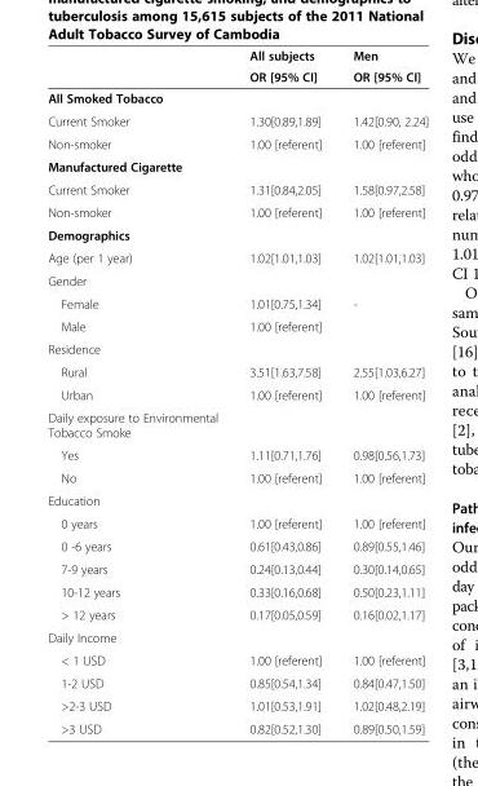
<table><thead><tr><td rowspan="2"></td><td rowspan="2">All subjects OR [95% CI]</td><td rowspan="2">Men OR [95% CI]</td></tr><tr></tr></thead><tbody><tr><td colspan="3">All Smoked Tobacco</td></tr><tr><td>Current Smoker</td><td>1.30[0.89,1.89]</td><td>1.42[0.90, 2.24]</td></tr><tr><td>Non-smoker</td><td>1.00 [referent]</td><td>1.00 [referent]</td></tr><tr><td colspan="3">Manufactured Cigarette</td></tr><tr><td>Current Smoker</td><td>1.31[0.84,2.05]</td><td>1.58[0.97,2.58]</td></tr><tr><td>Non-smoker</td><td>1.00 [referent]</td><td>1.00 [referent]</td></tr><tr><td colspan="3">Demographics</td></tr><tr><td>Age (per 1 year)</td><td>1.02[1.01,1.03]</td><td>1.02[1.01,1.03]</td></tr><tr><td colspan="3">Gender</td></tr><tr><td>Female</td><td>1.01[0.75,1.34]</td><td>-</td></tr><tr><td>Male</td><td>1.00 [referent]</td><td></td></tr><tr><td colspan="3">Residence</td></tr><tr><td>Rural</td><td>3.51[1.63,7.58]</td><td>2.55[1.03,6.27]</td></tr><tr><td>Urban</td><td>1.00 [referent]</td><td>1.00 [referent]</td></tr><tr><td colspan="3">Daily exposure to Environmental Tobacco Smoke</td></tr><tr><td>Yes</td><td>1.11[0.71,1.76]</td><td>0.98[0.56,1.73]</td></tr><tr><td>No</td><td>1.00 [referent]</td><td>1.00 [referent]</td></tr><tr><td colspan="3">Education</td></tr><tr><td>0 years</td><td>1.00 [referent]</td><td>1.00 [referent]</td></tr><tr><td>0 -6 years</td><td>0.61[0.43,0.86]</td><td>0.89[0.55,1.46]</td></tr><tr><td>7-9 years</td><td>0.24[0.13,0.44]</td><td>0.30[0.14,0.65]</td></tr><tr><td>10-12 years</td><td>0.33[0.16,0.68]</td><td>0.50[0.23,1.11]</td></tr><tr><td>&gt; 12 years</td><td>0.17[0.05,0.59]</td><td>0.16[0.02,1.17]</td></tr><tr><td colspan="3">Daily Income</td></tr><tr><td>&lt; 1 USD</td><td>1.00 [referent]</td><td>1.00 [referent]</td></tr><tr><td>1-2 USD</td><td>0.85[0.54,1.34]</td><td>0.84[0.47,1.50]</td></tr><tr><td>&gt;2-3 USD</td><td>1.01[0.53,1.91]</td><td>1.02[0.48,2.19]</td></tr><tr><td>&gt;3 USD</td><td>0.82[0.52,1.30]</td><td>0.89[0.50,1.59]</td></tr></tbody></table>